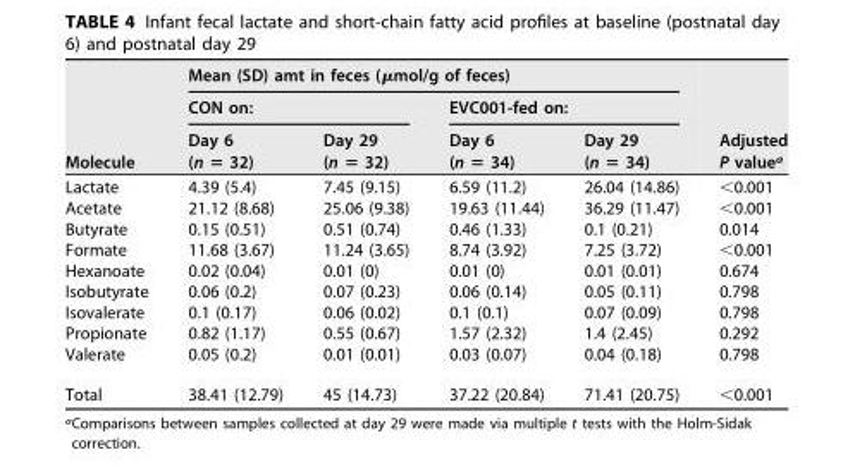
<table><thead><tr><td rowspan="3">Molecule</td><td colspan="4">Mean (SD) amt in feces (μmol/g of feces)</td><td rowspan="3">Adjusted P value<sup>a</sup></td></tr><tr><td colspan="2">CON on:</td><td colspan="2">EVC001-fed on:</td></tr><tr><td>Day 6 (n = 32)</td><td>Day 29 (n = 32)</td><td>Day 6 (n = 34)</td><td>Day 29 (n = 34)</td></tr></thead><tbody><tr><td>Lactate</td><td>4.39 (5.4)</td><td>7.45 (9.15)</td><td>6.59 (11.2)</td><td>26.04 (14.86)</td><td>&lt;0.001</td></tr><tr><td>Acetate</td><td>21.12 (8.68)</td><td>25.06 (9.38)</td><td>19.63 (11.44)</td><td>36.29 (11.47)</td><td>&lt;0.001</td></tr><tr><td>Butyrate</td><td>0.15 (0.51)</td><td>0.51 (0.74)</td><td>0.46 (1.33)</td><td>0.1 (0.21)</td><td>0.014</td></tr><tr><td>Formate</td><td>11.68 (3.67)</td><td>11.24 (3.65)</td><td>8.74 (3.92)</td><td>7.25 (3.72)</td><td>&lt;0.001</td></tr><tr><td>Hexanoate</td><td>0.02 (0.04)</td><td>0.01 (0)</td><td>0.01 (0)</td><td>0.01 (0.01)</td><td>0.674</td></tr><tr><td>Isobutyrate</td><td>0.06 (0.2)</td><td>0.07 (0.23)</td><td>0.06 (0.14)</td><td>0.05 (0.11)</td><td>0.798</td></tr><tr><td>Isovalerate</td><td>0.1 (0.17)</td><td>0.06 (0.02)</td><td>0.1 (0.1)</td><td>0.07 (0.09)</td><td>0.798</td></tr><tr><td>Propionate</td><td>0.82 (1.17)</td><td>0.55 (0.67)</td><td>1.57 (2.32)</td><td>1.4 (2.45)</td><td>0.292</td></tr><tr><td>Valerate</td><td>0.05 (0.2)</td><td>0.01 (0.01)</td><td>0.03 (0.07)</td><td>0.04 (0.18)</td><td>0.798</td></tr><tr><td>Total</td><td>38.41 (12.79)</td><td>45 (14.73)</td><td>37.22 (20.84)</td><td>71.41 (20.75)</td><td>&lt;0.001</td></tr></tbody></table>